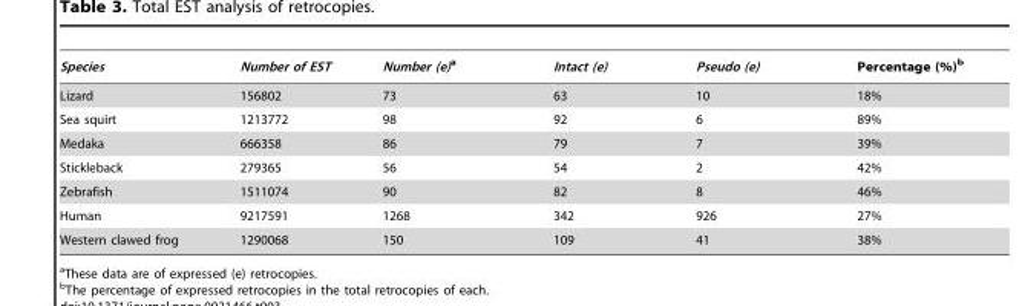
<table><thead><tr><td>Species</td><td>Number of EST</td><td>Number (e)a</td><td>Intact (e)</td><td>Pseudo (e)</td><td>Percentage (%)<sup>b</sup></td></tr></thead><tbody><tr><td>Lizard</td><td>156802</td><td>73</td><td>63</td><td>10</td><td>18%</td></tr><tr><td>Sea squirt</td><td>1213772</td><td>98</td><td>92</td><td>6</td><td>89%</td></tr><tr><td>Medaka</td><td>666358</td><td>86</td><td>79</td><td>7</td><td>39%</td></tr><tr><td>Stickleback</td><td>279365</td><td>56</td><td>54</td><td>2</td><td>42%</td></tr><tr><td>Zebrafish</td><td>1511074</td><td>90</td><td>82</td><td>8</td><td>46%</td></tr><tr><td>Human</td><td>9217591</td><td>1268</td><td>342</td><td>926</td><td>27%</td></tr><tr><td>Western clawed frog</td><td>1290068</td><td>150</td><td>109</td><td>41</td><td>38%</td></tr></tbody></table>